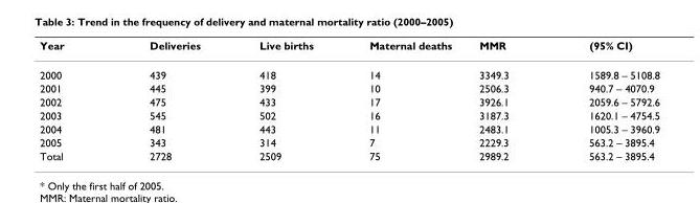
<table><thead><tr><td>Year</td><td>Deliveries</td><td>Live births</td><td>Maternal deaths</td><td>MMR</td><td>(95% CI)</td></tr></thead><tbody><tr><td>2000</td><td>439</td><td>418</td><td>14</td><td>3349.3</td><td>1589.8 – 5108.8</td></tr><tr><td>2001</td><td>445</td><td>399</td><td>10</td><td>2506.3</td><td>940.7 – 4070.9</td></tr><tr><td>2002</td><td>475</td><td>433</td><td>17</td><td>3926.1</td><td>2059.6 – 5792.6</td></tr><tr><td>2003</td><td>545</td><td>502</td><td>16</td><td>3187.3</td><td>1620.1 – 4754.5</td></tr><tr><td>2004</td><td>481</td><td>443</td><td>11</td><td>2483.1</td><td>1005.3 – 3960.9</td></tr><tr><td>2005</td><td>343</td><td>314</td><td>7</td><td>2229.3</td><td>563.2 – 3895.4</td></tr><tr><td>Total</td><td>2728</td><td>2509</td><td>75</td><td>2989.2</td><td>563.2 – 3895.4</td></tr></tbody></table>